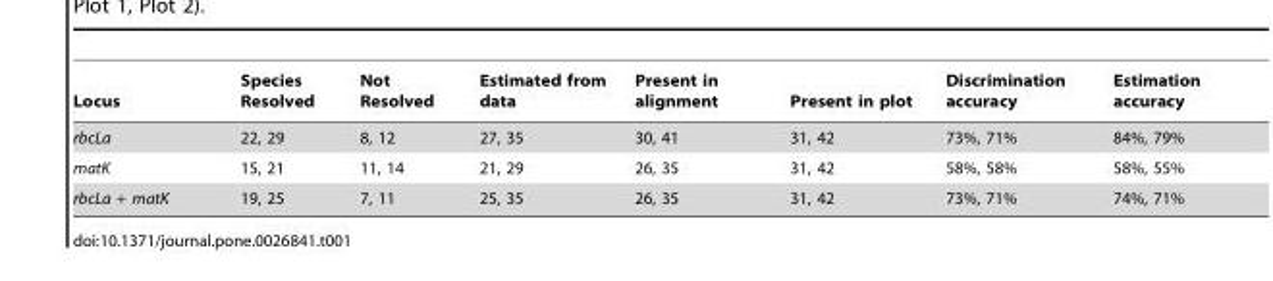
<table><thead><tr><td>Locus</td><td>Species Resolved</td><td>Not Resolved</td><td>Estimated from data</td><td>Present in alignment</td><td>Present in plot</td><td>Discrimination accuracy</td><td>Estimation accuracy</td></tr></thead><tbody><tr><td>rbcLa</td><td>22, 29</td><td>8, 12</td><td>27, 35</td><td>30, 41</td><td>31, 42</td><td>73%, 71%</td><td>84%, 79%</td></tr><tr><td>matK</td><td>15, 21</td><td>11, 14</td><td>21, 29</td><td>26, 35</td><td>31, 42</td><td>58%, 58%</td><td>58%, 55%</td></tr><tr><td>rbcLa + matK</td><td>19, 25</td><td>7, 11</td><td>25, 35</td><td>26, 35</td><td>31, 42</td><td>73%, 71%</td><td>74%, 71%</td></tr></tbody></table>